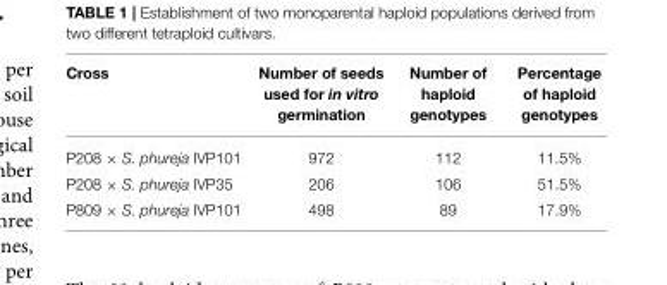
<table><thead><tr><td>Cross</td><td>Number of seeds used for in vitro germination</td><td>Number of haploid genotypes</td><td>Percentage of haploid genotypes</td></tr></thead><tbody><tr><td>P208 × S. phureja IVP101</td><td>972</td><td>112</td><td>11.5%</td></tr><tr><td>P208 × S. phureja IVP35</td><td>206</td><td>106</td><td>51.5%</td></tr><tr><td>P809 × S. phureja IVP101</td><td>498</td><td>89</td><td>17.9%</td></tr></tbody></table>